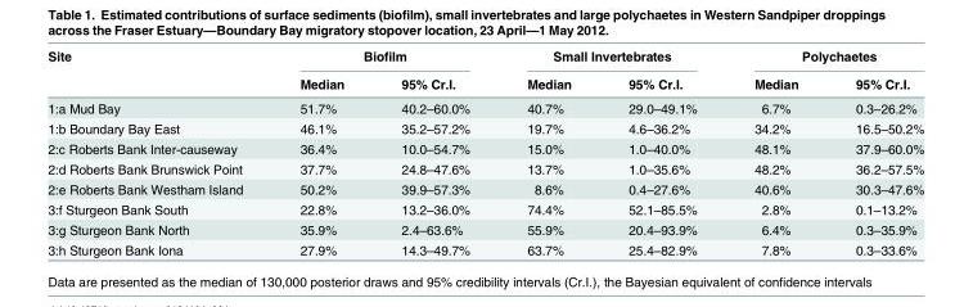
<table><thead><tr><td rowspan="2">Site</td><td colspan="2">Biofilm</td><td colspan="2">Small Invertebrates</td><td colspan="2">Polychaetes</td></tr><tr><td>Median</td><td>95% Cr.I.</td><td>Median</td><td>95% Cr.I.</td><td>Median</td><td>95% Cr.I.</td></tr></thead><tbody><tr><td>1:a Mud Bay</td><td>51.7%</td><td>40.2–60.0%</td><td>40.7%</td><td>29.0–49.1%</td><td>6.7%</td><td>0.3–26.2%</td></tr><tr><td>1:b Boundary Bay East</td><td>46.1%</td><td>35.2–57.2%</td><td>19.7%</td><td>4.6–36.2%</td><td>34.2%</td><td>16.5–50.2%</td></tr><tr><td>2:c Roberts Bank Inter-causeway</td><td>36.4%</td><td>10.0–54.7%</td><td>15.0%</td><td>1.0–40.0%</td><td>48.1%</td><td>37.9–60.0%</td></tr><tr><td>2:d Roberts Bank Brunswick Point</td><td>37.7%</td><td>24.8–47.6%</td><td>13.7%</td><td>1.0–35.6%</td><td>48.2%</td><td>36.2–57.5%</td></tr><tr><td>2:e Roberts Bank Westham Island</td><td>50.2%</td><td>39.9–57.3%</td><td>8.6%</td><td>0.4–27.6%</td><td>40.6%</td><td>30.3–47.6%</td></tr><tr><td>3:f Sturgeon Bank South</td><td>22.8%</td><td>13.2–36.0%</td><td>74.4%</td><td>52.1–85.5%</td><td>2.8%</td><td>0.1–13.2%</td></tr><tr><td>3:g Sturgeon Bank North</td><td>35.9%</td><td>2.4–63.6%</td><td>55.9%</td><td>20.4–93.9%</td><td>6.4%</td><td>0.3–35.9%</td></tr><tr><td>3:h Sturgeon Bank Iona</td><td>27.9%</td><td>14.3–49.7%</td><td>63.7%</td><td>25.4–82.9%</td><td>7.8%</td><td>0.3–33.6%</td></tr></tbody></table>